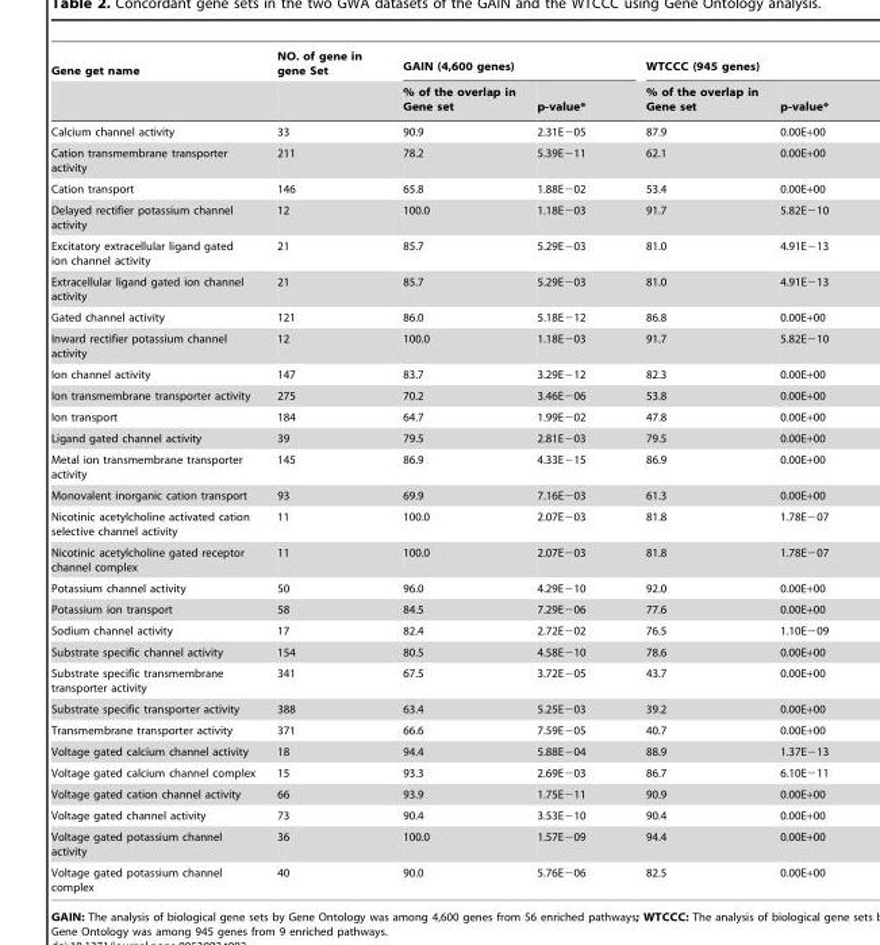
<table><thead><tr><td rowspan="2">Gene get name</td><td rowspan="2">NO. of gene in gene Set</td><td colspan="2">GAIN (4,600 genes)</td><td colspan="2">WTCCC (945 genes)</td></tr><tr><td>% of the overlap in Gene set</td><td>p-value*</td><td>% of the overlap in Gene set</td><td>p-value*</td></tr></thead><tbody><tr><td>Calcium channel activity</td><td>33</td><td>90.9</td><td>2.31E−05</td><td>87.9</td><td>0.00E+00</td></tr><tr><td>Cation transmembrane transporter activity</td><td>211</td><td>78.2</td><td>5.39E−11</td><td>62.1</td><td>0.00E+00</td></tr><tr><td>Cation transport</td><td>146</td><td>65.8</td><td>1.88E−02</td><td>53.4</td><td>0.00E+00</td></tr><tr><td>Delayed rectifier potassium channel activity</td><td>12</td><td>100.0</td><td>1.18E−03</td><td>91.7</td><td>5.82E−10</td></tr><tr><td>Excitatory extracellular ligand gated ion channel activity</td><td>21</td><td>85.7</td><td>5.29E−03</td><td>81.0</td><td>4.91E−13</td></tr><tr><td>Extracellular ligand gated ion channel activity</td><td>21</td><td>85.7</td><td>5.29E−03</td><td>81.0</td><td>4.91E−13</td></tr><tr><td>Gated channel activity</td><td>121</td><td>86.0</td><td>5.18E−12</td><td>86.8</td><td>0.00E+00</td></tr><tr><td>Inward rectifier potassium channel activity</td><td>12</td><td>100.0</td><td>1.18E−03</td><td>91.7</td><td>5.82E−10</td></tr><tr><td>Ion channel activity</td><td>147</td><td>83.7</td><td>3.29E−12</td><td>82.3</td><td>0.00E+00</td></tr><tr><td>Ion transmembrane transporter activity</td><td>275</td><td>70.2</td><td>3.46E−06</td><td>53.8</td><td>0.00E+00</td></tr><tr><td>Ion transport</td><td>184</td><td>64.7</td><td>1.99E−02</td><td>47.8</td><td>0.00E+00</td></tr><tr><td>Ligand gated channel activity</td><td>39</td><td>79.5</td><td>2.81E−03</td><td>79.5</td><td>0.00E+00</td></tr><tr><td>Metal ion transmembrane transporter activity</td><td>145</td><td>86.9</td><td>4.33E−15</td><td>86.9</td><td>0.00E+00</td></tr><tr><td>Monovalent inorganic cation transport</td><td>93</td><td>69.9</td><td>7.16E−03</td><td>61.3</td><td>0.00E+00</td></tr><tr><td>Nicotinic acetylcholine activated cation selective channel activity</td><td>11</td><td>100.0</td><td>2.07E−03</td><td>81.8</td><td>1.78E−07</td></tr><tr><td>Nicotinic acetylcholine gated receptor channel complex</td><td>11</td><td>100.0</td><td>2.07E−03</td><td>81.8</td><td>1.78E−07</td></tr><tr><td>Potassium channel activity</td><td>50</td><td>96.0</td><td>4.29E−10</td><td>92.0</td><td>0.00E+00</td></tr><tr><td>Potassium ion transport</td><td>58</td><td>84.5</td><td>7.29E−06</td><td>77.6</td><td>0.00E+00</td></tr><tr><td>Sodium channel activity</td><td>17</td><td>82.4</td><td>2.72E−02</td><td>76.5</td><td>1.10E−09</td></tr><tr><td>Substrate specific channel activity</td><td>154</td><td>80.5</td><td>4.58E−10</td><td>78.6</td><td>0.00E+00</td></tr><tr><td>Substrate specific transmembrane transporter activity</td><td>341</td><td>67.5</td><td>3.72E−05</td><td>43.7</td><td>0.00E+00</td></tr><tr><td>Substrate specific transporter activity</td><td>388</td><td>63.4</td><td>5.25E−03</td><td>39.2</td><td>0.00E+00</td></tr><tr><td>Transmembrane transporter activity</td><td>371</td><td>66.6</td><td>7.59E−05</td><td>40.7</td><td>0.00E+00</td></tr><tr><td>Voltage gated calcium channel activity</td><td>18</td><td>94.4</td><td>5.88E−04</td><td>88.9</td><td>1.37E−13</td></tr><tr><td>Voltage gated calcium channel complex</td><td>15</td><td>93.3</td><td>2.69E−03</td><td>86.7</td><td>6.10E−11</td></tr><tr><td>Voltage gated cation channel activity</td><td>66</td><td>93.9</td><td>1.75E−11</td><td>90.9</td><td>0.00E+00</td></tr><tr><td>Voltage gated channel activity</td><td>73</td><td>90.4</td><td>3.53E−10</td><td>90.4</td><td>0.00E+00</td></tr><tr><td>Voltage gated potassium channel activity</td><td>36</td><td>100.0</td><td>1.57E−09</td><td>94.4</td><td>0.00E+00</td></tr><tr><td>Voltage gated potassium channel complex</td><td>40</td><td>90.0</td><td>5.76E−06</td><td>82.5</td><td>0.00E+00</td></tr></tbody></table>